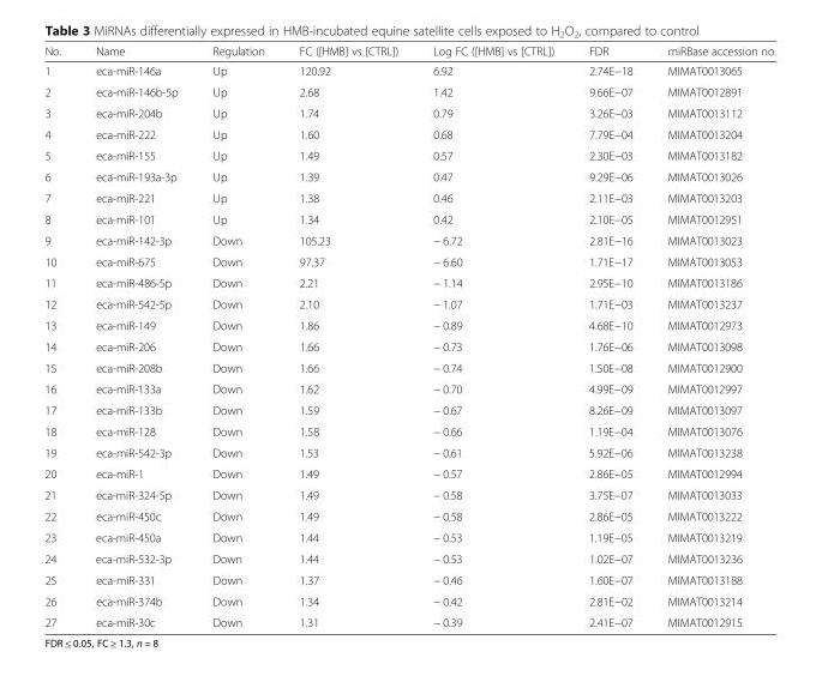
<table><thead><tr><td>No.</td><td>Name</td><td>Regulation</td><td>FC ([HMB] vs [CTRL])</td><td>Log FC ([HMB] vs [CTRL])</td><td>FDR</td><td>miRBase accession no.</td></tr></thead><tbody><tr><td>1</td><td>eca-miR-146a</td><td>Up</td><td>120.92</td><td>6.92</td><td>2.74E−18</td><td>MIMAT0013065</td></tr><tr><td>2</td><td>eca-miR-146b-5p</td><td>Up</td><td>2.68</td><td>1.42</td><td>9.66E−07</td><td>MIMAT0012891</td></tr><tr><td>3</td><td>eca-miR-204b</td><td>Up</td><td>1.74</td><td>0.79</td><td>3.26E−03</td><td>MIMAT0013112</td></tr><tr><td>4</td><td>eca-miR-222</td><td>Up</td><td>1.60</td><td>0.68</td><td>7.79E−04</td><td>MIMAT0013204</td></tr><tr><td>5</td><td>eca-miR-155</td><td>Up</td><td>1.49</td><td>0.57</td><td>2.30E−03</td><td>MIMAT0013182</td></tr><tr><td>6</td><td>eca-miR-193a-3p</td><td>Up</td><td>1.39</td><td>0.47</td><td>9.29E−06</td><td>MIMAT0013026</td></tr><tr><td>7</td><td>eca-miR-221</td><td>Up</td><td>1.38</td><td>0.46</td><td>2.11E−03</td><td>MIMAT0013203</td></tr><tr><td>8</td><td>eca-miR-101</td><td>Up</td><td>1.34</td><td>0.42</td><td>2.10E−05</td><td>MIMAT0012951</td></tr><tr><td>9</td><td>eca-miR-142-3p</td><td>Down</td><td>105.23</td><td>− 6.72</td><td>2.81E−16</td><td>MIMAT0013023</td></tr><tr><td>10</td><td>eca-miR-675</td><td>Down</td><td>97.37</td><td>− 6.60</td><td>1.71E−17</td><td>MIMAT0013053</td></tr><tr><td>11</td><td>eca-miR-486-5p</td><td>Down</td><td>2.21</td><td>− 1.14</td><td>2.95E−10</td><td>MIMAT0013186</td></tr><tr><td>12</td><td>eca-miR-542-5p</td><td>Down</td><td>2.10</td><td>− 1.07</td><td>1.71E−03</td><td>MIMAT0013237</td></tr><tr><td>13</td><td>eca-miR-149</td><td>Down</td><td>1.86</td><td>− 0.89</td><td>4.68E−10</td><td>MIMAT0012973</td></tr><tr><td>14</td><td>eca-miR-206</td><td>Down</td><td>1.66</td><td>− 0.73</td><td>1.76E−06</td><td>MIMAT0013098</td></tr><tr><td>15</td><td>eca-miR-208b</td><td>Down</td><td>1.66</td><td>− 0.74</td><td>1.50E−08</td><td>MIMAT0012900</td></tr><tr><td>16</td><td>eca-miR-133a</td><td>Down</td><td>1.62</td><td>− 0.70</td><td>4.99E−09</td><td>MIMAT0012997</td></tr><tr><td>17</td><td>eca-miR-133b</td><td>Down</td><td>1.59</td><td>− 0.67</td><td>8.26E−09</td><td>MIMAT0013097</td></tr><tr><td>18</td><td>eca-miR-128</td><td>Down</td><td>1.58</td><td>− 0.66</td><td>1.19E−04</td><td>MIMAT0013076</td></tr><tr><td>19</td><td>eca-miR-542-3p</td><td>Down</td><td>1.53</td><td>− 0.61</td><td>5.92E−06</td><td>MIMAT0013238</td></tr><tr><td>20</td><td>eca-miR-1</td><td>Down</td><td>1.49</td><td>− 0.57</td><td>2.86E−05</td><td>MIMAT0012994</td></tr><tr><td>21</td><td>eca-miR-324-5p</td><td>Down</td><td>1.49</td><td>− 0.58</td><td>3.75E−07</td><td>MIMAT0013033</td></tr><tr><td>22</td><td>eca-miR-450c</td><td>Down</td><td>1.49</td><td>− 0.58</td><td>2.86E−05</td><td>MIMAT0013222</td></tr><tr><td>23</td><td>eca-miR-450a</td><td>Down</td><td>1.44</td><td>− 0.53</td><td>1.19E−05</td><td>MIMAT0013219</td></tr><tr><td>24</td><td>eca-miR-532-3p</td><td>Down</td><td>1.44</td><td>− 0.53</td><td>1.02E−07</td><td>MIMAT0013236</td></tr><tr><td>25</td><td>eca-miR-331</td><td>Down</td><td>1.37</td><td>− 0.46</td><td>1.60E−07</td><td>MIMAT0013188</td></tr><tr><td>26</td><td>eca-miR-374b</td><td>Down</td><td>1.34</td><td>− 0.42</td><td>2.81E−02</td><td>MIMAT0013214</td></tr><tr><td>27</td><td>eca-miR-30c</td><td>Down</td><td>1.31</td><td>− 0.39</td><td>2.41E−07</td><td>MIMAT0012915</td></tr></tbody></table>